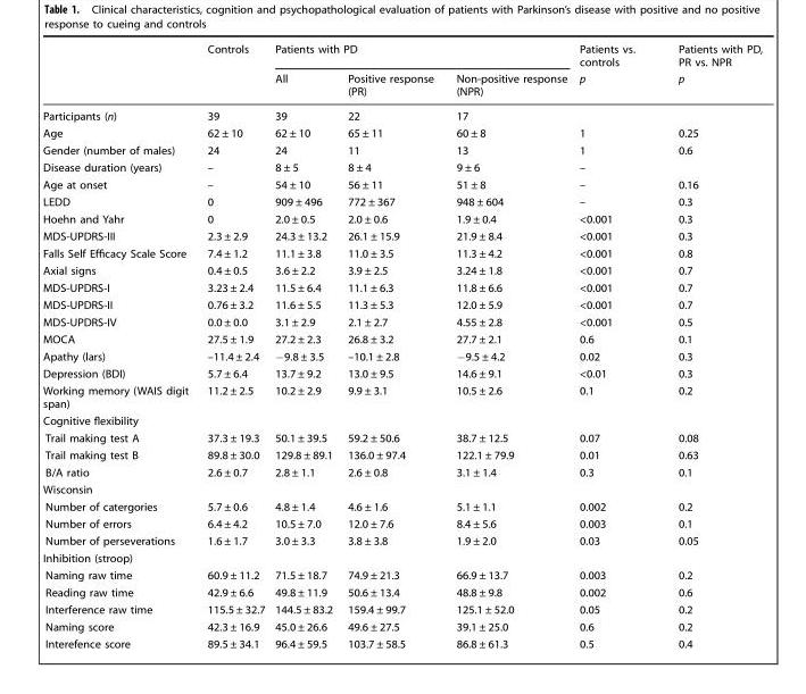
<table><thead><tr><td rowspan="2"></td><td rowspan="2">Controls</td><td colspan="3">Patients with PD</td><td rowspan="2">Patients vs. controls p</td><td rowspan="2">Patients with PD, PR vs. NPR p</td></tr><tr><td>All</td><td>Positive response (PR)</td><td>Non-positive response (NPR)</td></tr></thead><tbody><tr><td>Participants (n)</td><td>39</td><td>39</td><td>22</td><td>17</td><td></td><td></td></tr><tr><td>Age</td><td>62 ± 10</td><td>62 ± 10</td><td>65 ± 11</td><td>60 ± 8</td><td>1</td><td>0.25</td></tr><tr><td>Gender (number of males)</td><td>24</td><td>24</td><td>11</td><td>13</td><td>1</td><td>0.6</td></tr><tr><td>Disease duration (years)</td><td>–</td><td>8 ± 5</td><td>8 ± 4</td><td>9 ± 6</td><td>–</td><td></td></tr><tr><td>Age at onset</td><td>–</td><td>54 ± 10</td><td>56 ± 11</td><td>51 ± 8</td><td>–</td><td>0.16</td></tr><tr><td>LEDD</td><td>0</td><td>909 ± 496</td><td>772 ± 367</td><td>948 ± 604</td><td>–</td><td>0.3</td></tr><tr><td>Hoehn and Yahr</td><td>0</td><td>2.0 ± 0.5</td><td>2.0 ± 0.6</td><td>1.9 ± 0.4</td><td>&lt;0.001</td><td>0.3</td></tr><tr><td>MDS-UPDRS-III</td><td>2.3 ± 2.9</td><td>24.3 ± 13.2</td><td>26.1 ± 15.9</td><td>21.9 ± 8.4</td><td>&lt;0.001</td><td>0.3</td></tr><tr><td>Falls Self Efficacy Scale Score</td><td>7.4 ± 1.2</td><td>11.1 ± 3.8</td><td>11.0 ± 3.5</td><td>11.3 ± 4.2</td><td>&lt;0.001</td><td>0.8</td></tr><tr><td>Axial signs</td><td>0.4 ± 0.5</td><td>3.6 ± 2.2</td><td>3.9 ± 2.5</td><td>3.24 ± 1.8</td><td>&lt;0.001</td><td>0.7</td></tr><tr><td>MDS-UPDRS-I</td><td>3.23 ± 2.4</td><td>11.5 ± 6.4</td><td>11.1 ± 6.3</td><td>11.8 ± 6.6</td><td>&lt;0.001</td><td>0.7</td></tr><tr><td>MDS-UPDRS-II</td><td>0.76 ± 3.2</td><td>11.6 ± 5.5</td><td>11.3 ± 5.3</td><td>12.0 ± 5.9</td><td>&lt;0.001</td><td>0.7</td></tr><tr><td>MDS-UPDRS-IV</td><td>0.0 ± 0.0</td><td>3.1 ± 2.9</td><td>2.1 ± 2.7</td><td>4.55 ± 2.8</td><td>&lt;0.001</td><td>0.5</td></tr><tr><td>MOCA</td><td>27.5 ± 1.9</td><td>27.2 ± 2.3</td><td>26.8 ± 3.2</td><td>27.7 ± 2.1</td><td>0.6</td><td>0.1</td></tr><tr><td>Apathy (lars)</td><td>–11.4 ± 2.4</td><td>−9.8 ± 3.5</td><td>–10.1 ± 2.8</td><td>−9.5 ± 4.2</td><td>0.02</td><td>0.3</td></tr><tr><td>Depression (BDI)</td><td>5.7 ± 6.4</td><td>13.7 ± 9.2</td><td>13.0 ± 9.5</td><td>14.6 ± 9.1</td><td>&lt;0.01</td><td>0.3</td></tr><tr><td>Working memory (WAIS digit span)</td><td>11.2 ± 2.5</td><td>10.2 ± 2.9</td><td>9.9 ± 3.1</td><td>10.5 ± 2.6</td><td>0.1</td><td>0.2</td></tr><tr><td colspan="7">Cognitive flexibility</td></tr><tr><td>Trail making test A</td><td>37.3 ± 19.3</td><td>50.1 ± 39.5</td><td>59.2 ± 50.6</td><td>38.7 ± 12.5</td><td>0.07</td><td>0.08</td></tr><tr><td>Trail making test B</td><td>89.8 ± 30.0</td><td>129.8 ± 89.1</td><td>136.0 ± 97.4</td><td>122.1 ± 79.9</td><td>0.01</td><td>0.63</td></tr><tr><td>B/A ratio</td><td>2.6 ± 0.7</td><td>2.8 ± 1.1</td><td>2.6 ± 0.8</td><td>3.1 ± 1.4</td><td>0.3</td><td>0.1</td></tr><tr><td colspan="7">Wisconsin</td></tr><tr><td>Number of catergories</td><td>5.7 ± 0.6</td><td>4.8 ± 1.4</td><td>4.6 ± 1.6</td><td>5.1 ± 1.1</td><td>0.002</td><td>0.2</td></tr><tr><td>Number of errors</td><td>6.4 ± 4.2</td><td>10.5 ± 7.0</td><td>12.0 ± 7.6</td><td>8.4 ± 5.6</td><td>0.003</td><td>0.1</td></tr><tr><td>Number of perseverations</td><td>1.6 ± 1.7</td><td>3.0 ± 3.3</td><td>3.8 ± 3.8</td><td>1.9 ± 2.0</td><td>0.03</td><td>0.05</td></tr><tr><td colspan="7">Inhibition (stroop)</td></tr><tr><td>Naming raw time</td><td>60.9 ± 11.2</td><td>71.5 ± 18.7</td><td>74.9 ± 21.3</td><td>66.9 ± 13.7</td><td>0.003</td><td>0.2</td></tr><tr><td>Reading raw time</td><td>42.9 ± 6.6</td><td>49.8 ± 11.9</td><td>50.6 ± 13.4</td><td>48.8 ± 9.8</td><td>0.002</td><td>0.6</td></tr><tr><td>Interference raw time</td><td>115.5 ± 32.7</td><td>144.5 ± 83.2</td><td>159.4 ± 99.7</td><td>125.1 ± 52.0</td><td>0.05</td><td>0.2</td></tr><tr><td>Naming score</td><td>42.3 ± 16.9</td><td>45.0 ± 26.6</td><td>49.6 ± 27.5</td><td>39.1 ± 25.0</td><td>0.6</td><td>0.2</td></tr><tr><td>Interefence score</td><td>89.5 ± 34.1</td><td>96.4 ± 59.5</td><td>103.7 ± 58.5</td><td>86.8 ± 61.3</td><td>0.5</td><td>0.4</td></tr></tbody></table>